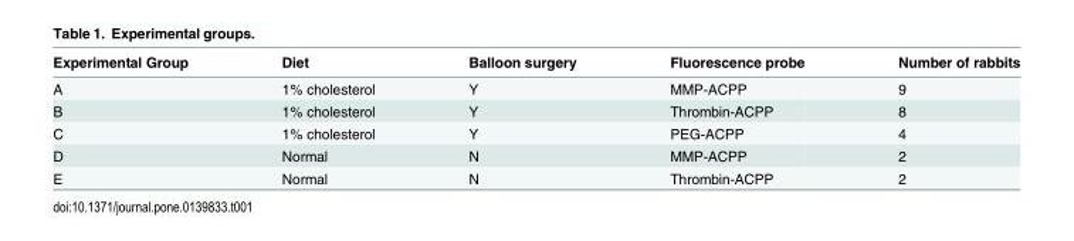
<table><thead><tr><td>Experimental Group</td><td>Diet</td><td>Balloon surgery</td><td>Fluorescence probe</td><td>Number of rabbits</td></tr></thead><tbody><tr><td>A</td><td>1% cholesterol</td><td>Y</td><td>MMP-ACPP</td><td>9</td></tr><tr><td>B</td><td>1% cholesterol</td><td>Y</td><td>Thrombin-ACPP</td><td>8</td></tr><tr><td>C</td><td>1% cholesterol</td><td>Y</td><td>PEG-ACPP</td><td>4</td></tr><tr><td>D</td><td>Normal</td><td>N</td><td>MMP-ACPP</td><td>2</td></tr><tr><td>E</td><td>Normal</td><td>N</td><td>Thrombin-ACPP</td><td>2</td></tr></tbody></table>